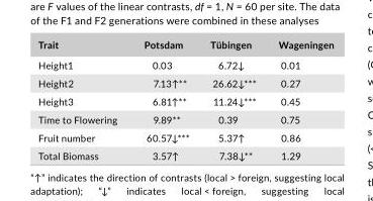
<table><thead><tr><td>Trait</td><td>Potsdam</td><td>Tübingen</td><td>Wageningen</td></tr></thead><tbody><tr><td>Height1</td><td>0.03</td><td>6.72↓</td><td>0.01</td></tr><tr><td>Height2</td><td>7.13↑**</td><td>26.62↓***</td><td>0.27</td></tr><tr><td>Height3</td><td>6.81↑**</td><td>11.24↓***</td><td>0.45</td></tr><tr><td>Time to Flowering</td><td>9.89**</td><td>0.39</td><td>0.75</td></tr><tr><td>Fruit number</td><td>60.57↓***</td><td>5.37↑</td><td>0.86</td></tr><tr><td>Total Biomass</td><td>3.57↑</td><td>7.38↓**</td><td>1.29</td></tr></tbody></table>